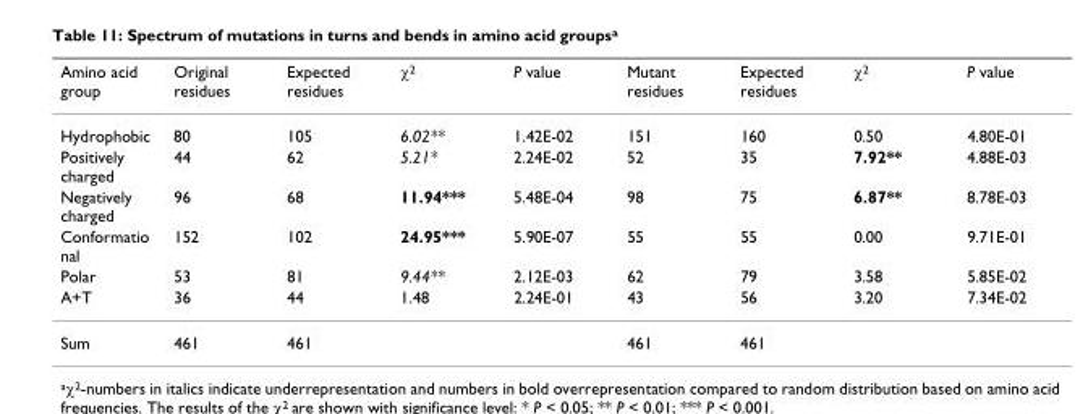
<table><thead><tr><td>Amino acid group</td><td>Original residues</td><td>Expected residues</td><td>χ<sup>2</sup></td><td>P value</td><td>Mutant residues</td><td>Expected residues</td><td>χ<sup>2</sup></td><td>P value</td></tr></thead><tbody><tr><td>Hydrophobic</td><td>80</td><td>105</td><td>6.02**</td><td>1.42E-02</td><td>151</td><td>160</td><td>0.50</td><td>4.80E-01</td></tr><tr><td>Positively charged</td><td>44</td><td>62</td><td>5.21*</td><td>2.24E-02</td><td>52</td><td>35</td><td>7.92**</td><td>4.88E-03</td></tr><tr><td>Negatively charged</td><td>96</td><td>68</td><td>11.94***</td><td>5.48E-04</td><td>98</td><td>75</td><td>6.87**</td><td>8.78E-03</td></tr><tr><td>Conformatio nal</td><td>152</td><td>102</td><td>24.95***</td><td>5.90E-07</td><td>55</td><td>55</td><td>0.00</td><td>9.71E-01</td></tr><tr><td>Polar</td><td>53</td><td>81</td><td>9.44**</td><td>2.12E-03</td><td>62</td><td>79</td><td>3.58</td><td>5.85E-02</td></tr><tr><td>A+T</td><td>36</td><td>44</td><td>1.48</td><td>2.24E-01</td><td>43</td><td>56</td><td>3.20</td><td>7.34E-02</td></tr><tr><td>Sum</td><td>461</td><td>461</td><td></td><td></td><td>461</td><td>461</td><td></td><td></td></tr></tbody></table>